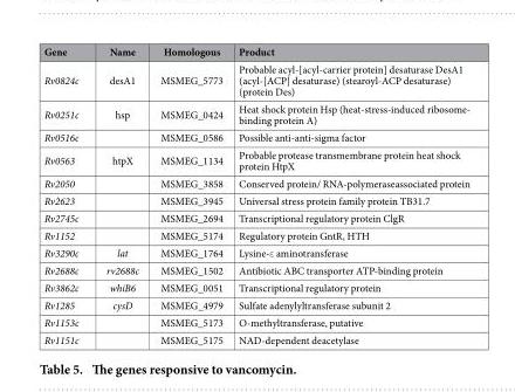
<table><thead><tr><td>Gene</td><td>Name</td><td>Homologous</td><td>Product</td></tr></thead><tbody><tr><td>Rv0824c</td><td>desA1</td><td>MSMEG_5773</td><td>Probable acyl-[acyl-carrier protein] desaturase DesA1 (acyl-[ACP] desaturase) (stearoyl-ACP desaturase) (protein Des)</td></tr><tr><td>Rv0251c</td><td>hsp</td><td>MSMEG_0424</td><td>Heat shock protein Hsp (heat-stress-induced ribosome- binding protein A)</td></tr><tr><td>Rv0516c</td><td></td><td>MSMEG_0586</td><td>Possible anti-anti-sigma factor</td></tr><tr><td>Rv0563</td><td>htpX</td><td>MSMEG_1134</td><td>Probable protease transmembrane protein heat shock protein HtpX</td></tr><tr><td>Rv2050</td><td></td><td>MSMEG_3858</td><td>Conserved protein/ RNA-polymeraseassociated protein</td></tr><tr><td>Rv2623</td><td></td><td>MSMEG_3945</td><td>Universal stress protein family protein TB31.7</td></tr><tr><td>Rv2745c</td><td></td><td>MSMEG_2694</td><td>Transcriptional regulatory protein ClgR</td></tr><tr><td>Rv1152</td><td></td><td>MSMEG_5174</td><td>Regulatory protein GntR, HTH</td></tr><tr><td>Rv3290c</td><td>lat</td><td>MSMEG_1764</td><td>Lysine-ε aminotransferase</td></tr><tr><td>Rv2688c</td><td>rv2688c</td><td>MSMEG_1502</td><td>Antibiotic ABC transporter ATP-binding protein</td></tr><tr><td>Rv3862c</td><td>whiB6</td><td>MSMEG_0051</td><td>Transcriptional regulatory protein</td></tr><tr><td>Rv1285</td><td>cysD</td><td>MSMEG_4979</td><td>Sulfate adenylyltransferase subunit 2</td></tr><tr><td>Rv1153c</td><td></td><td>MSMEG_5173</td><td>O-methyltransferase, putative</td></tr><tr><td>Rv1151c</td><td></td><td>MSMEG_5175</td><td>NAD-dependent deacetylase</td></tr></tbody></table>